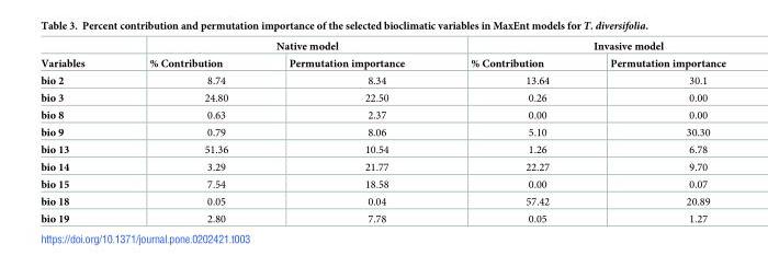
<table><thead><tr><td rowspan="2">Variables</td><td colspan="2">Native model</td><td colspan="2">Invasive model</td></tr><tr><td>% Contribution</td><td>Permutation importance</td><td>% Contribution</td><td>Permutation importance</td></tr></thead><tbody><tr><td>bio 2</td><td>8.74</td><td>8.34</td><td>13.64</td><td>30.1</td></tr><tr><td>bio 3</td><td>24.80</td><td>22.50</td><td>0.26</td><td>0.00</td></tr><tr><td>bio 8</td><td>0.63</td><td>2.37</td><td>0.00</td><td>0.00</td></tr><tr><td>bio 9</td><td>0.79</td><td>8.06</td><td>5.10</td><td>30.30</td></tr><tr><td>bio 13</td><td>51.36</td><td>10.54</td><td>1.26</td><td>6.78</td></tr><tr><td>bio 14</td><td>3.29</td><td>21.77</td><td>22.27</td><td>9.70</td></tr><tr><td>bio 15</td><td>7.54</td><td>18.58</td><td>0.00</td><td>0.07</td></tr><tr><td>bio 18</td><td>0.05</td><td>0.04</td><td>57.42</td><td>20.89</td></tr><tr><td>bio 19</td><td>2.80</td><td>7.78</td><td>0.05</td><td>1.27</td></tr></tbody></table>